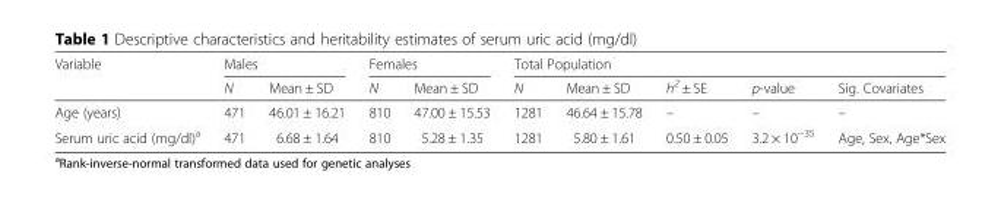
<table><thead><tr><td rowspan="2">Variable</td><td colspan="2">Males</td><td colspan="2">Females</td><td colspan="5">Total Population</td></tr><tr><td>N</td><td>Mean ± SD</td><td>N</td><td>Mean ± SD</td><td>N</td><td>Mean ± SD</td><td>h<sup>2</sup> ± SE</td><td>p-value</td><td>Sig. Covariates</td></tr></thead><tbody><tr><td>Age (years)</td><td>471</td><td>46.01 ± 16.21</td><td>810</td><td>47.00 ± 15.53</td><td>1281</td><td>46.64 ± 15.78</td><td>–</td><td>–</td><td>–</td></tr><tr><td>Serum uric acid (mg/dl)<sup>a</sup></td><td>471</td><td>6.68 ± 1.64</td><td>810</td><td>5.28 ± 1.35</td><td>1281</td><td>5.80 ± 1.61</td><td>0.50 ± 0.05</td><td>3.2 × 10<sup>−35</sup></td><td>Age, Sex, Age*Sex</td></tr></tbody></table>